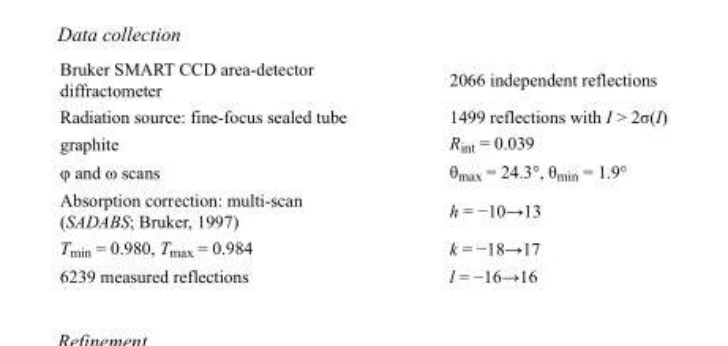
<table><tbody><tr><td>Bruker SMART CCD area-detector diffractometer</td><td>2066 independent reflections</td></tr><tr><td>Radiation source: fine-focus sealed tube</td><td>1499 reflections with I &gt; 2σ(I)</td></tr><tr><td>graphite</td><td>R<sub>int</sub> = 0.039</td></tr><tr><td>φ and ω scans</td><td>θ<sub>max</sub> = 24.3°, θ<sub>min</sub> = 1.9°</td></tr><tr><td>Absorption correction: multi-scan (SADABS; Bruker, 1997)</td><td>h = −10→13</td></tr><tr><td>T<sub>min</sub> = 0.980, T<sub>max</sub> = 0.984</td><td>k = −18→17</td></tr><tr><td>6239 measured reflections</td><td>l = −16→16</td></tr></tbody></table>